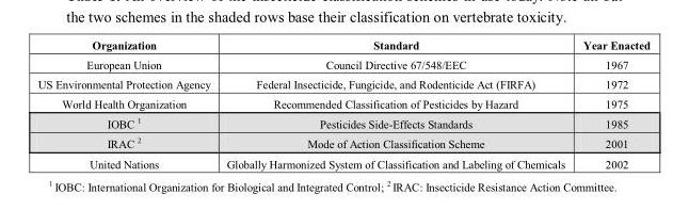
<table><thead><tr><td>Organization</td><td>Standard</td><td>Year Enacted</td></tr></thead><tbody><tr><td>European Union</td><td>Council Directive 67/548/EEC</td><td>1967</td></tr><tr><td>US Environmental Protection Agency</td><td>Federal Insecticide, Fungicide, and Rodenticide Act (FIRFA)</td><td>1972</td></tr><tr><td>World Health Organization</td><td>Recommended Classification of Pesticides by Hazard</td><td>1975</td></tr><tr><td>IOBC <sup>1</sup></td><td>Pesticides Side-Effects Standards</td><td>1985</td></tr><tr><td>IRAC <sup>2</sup></td><td>Mode of Action Classification Scheme</td><td>2001</td></tr><tr><td>United Nations</td><td>Globally Harmonized System of Classification and Labeling of Chemicals</td><td>2002</td></tr></tbody></table>